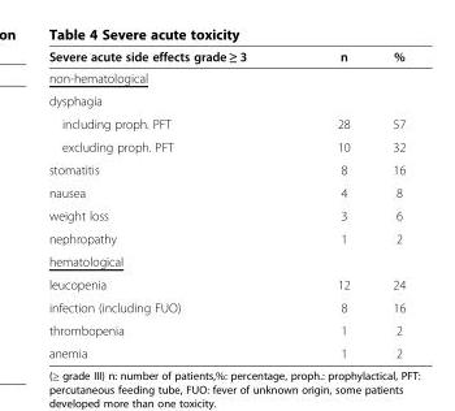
<table><thead><tr><td>Severe acute side effects grade ≥ 3</td><td>n</td><td>%</td></tr></thead><tbody><tr><td colspan="3">non-hematological</td></tr><tr><td colspan="3">dysphagia</td></tr><tr><td>including proph. PFT</td><td>28</td><td>57</td></tr><tr><td>excluding proph. PFT</td><td>10</td><td>32</td></tr><tr><td>stomatitis</td><td>8</td><td>16</td></tr><tr><td>nausea</td><td>4</td><td>8</td></tr><tr><td>weight loss</td><td>3</td><td>6</td></tr><tr><td>nephropathy</td><td>1</td><td>2</td></tr><tr><td colspan="3">hematological</td></tr><tr><td>leucopenia</td><td>12</td><td>24</td></tr><tr><td>infection (including FUO)</td><td>8</td><td>16</td></tr><tr><td>thrombopenia</td><td>1</td><td>2</td></tr><tr><td>anemia</td><td>1</td><td>2</td></tr></tbody></table>